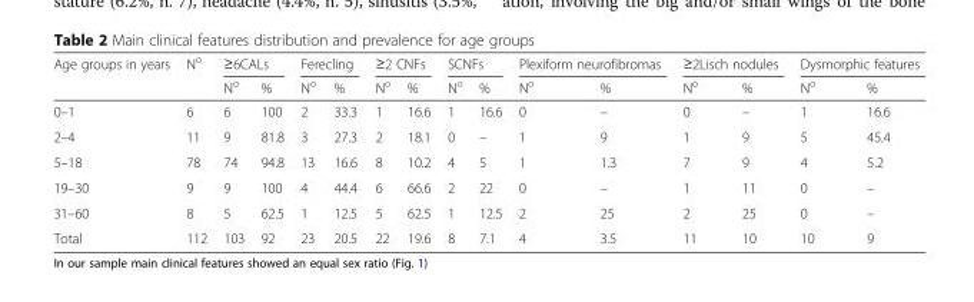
<table><thead><tr><td rowspan="2">Age groups in years</td><td rowspan="2">N<sup>o</sup></td><td colspan="2">≥6CALs</td><td colspan="2">Ferecling</td><td colspan="2">≥2 CNFs</td><td colspan="2">SCNFs</td><td colspan="2">Plexiform neurofibromas</td><td colspan="2">≥2Lisch nodules</td><td colspan="2">Dysmorphic features</td></tr><tr><td>N<sup>o</sup></td><td>%</td><td>N<sup>o</sup></td><td>%</td><td>N<sup>o</sup></td><td>%</td><td>N<sup>o</sup></td><td>%</td><td>N<sup>o</sup></td><td>%</td><td>N<sup>o</sup></td><td>%</td><td>N<sup>o</sup></td><td>%</td></tr></thead><tbody><tr><td>0–1</td><td>6</td><td>6</td><td>100</td><td>2</td><td>33.3</td><td>1</td><td>16.6</td><td>1</td><td>16.6</td><td>0</td><td>–</td><td>0</td><td>–</td><td>1</td><td>16.6</td></tr><tr><td>2–4</td><td>11</td><td>9</td><td>81.8</td><td>3</td><td>27.3</td><td>2</td><td>18.1</td><td>0</td><td>–</td><td>1</td><td>9</td><td>1</td><td>9</td><td>5</td><td>45.4</td></tr><tr><td>5–18</td><td>78</td><td>74</td><td>94.8</td><td>13</td><td>16.6</td><td>8</td><td>10.2</td><td>4</td><td>5</td><td>1</td><td>1.3</td><td>7</td><td>9</td><td>4</td><td>5.2</td></tr><tr><td>19–30</td><td>9</td><td>9</td><td>100</td><td>4</td><td>44.4</td><td>6</td><td>66.6</td><td>2</td><td>22</td><td>0</td><td>–</td><td>1</td><td>11</td><td>0</td><td>–</td></tr><tr><td>31–60</td><td>8</td><td>5</td><td>62.5</td><td>1</td><td>12.5</td><td>5</td><td>62.5</td><td>1</td><td>12.5</td><td>2</td><td>25</td><td>2</td><td>25</td><td>0</td><td>–</td></tr><tr><td>Total</td><td>112</td><td>103</td><td>92</td><td>23</td><td>20.5</td><td>22</td><td>19.6</td><td>8</td><td>7.1</td><td>4</td><td>3.5</td><td>11</td><td>10</td><td>10</td><td>9</td></tr></tbody></table>